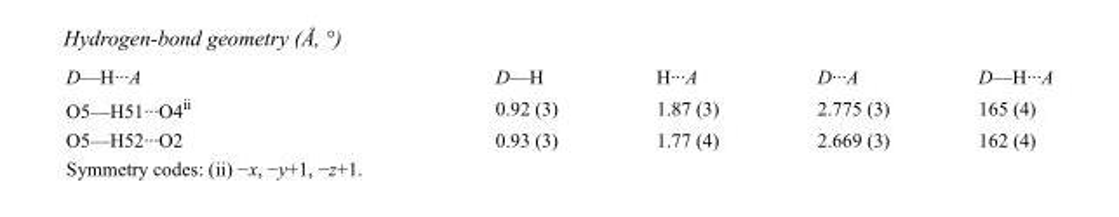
<table><tbody><tr><td>D—H···A</td><td>D—H</td><td>H···A</td><td>D···A</td><td>D—H···A</td></tr><tr><td>O5—H51···O4<sup>ii</sup></td><td>0.92 (3)</td><td>1.87 (3)</td><td>2.775 (3)</td><td>165 (4)</td></tr><tr><td>O5—H52···O2</td><td>0.93 (3)</td><td>1.77 (4)</td><td>2.669 (3)</td><td>162 (4)</td></tr></tbody></table>